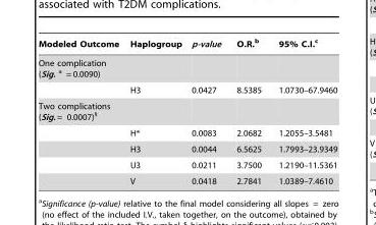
<table><thead><tr><td>Modeled Outcome</td><td>Haplogroup</td><td>p-value</td><td>O.R.<sup>b</sup></td><td>95% C.I.<sup>c</sup></td></tr></thead><tbody><tr><td colspan="5">One complication (Sig. a = 0.0090)</td></tr><tr><td></td><td>H3</td><td>0.0427</td><td>8.5385</td><td>1.0730–67.9460</td></tr><tr><td colspan="5">Two complications (Sig. = 0.0007)<sup>§</sup></td></tr><tr><td></td><td>H*</td><td>0.0083</td><td>2.0682</td><td>1.2055–3.5481</td></tr><tr><td></td><td>H3</td><td>0.0044</td><td>6.5625</td><td>1.7993–23.9349</td></tr><tr><td></td><td>U3</td><td>0.0211</td><td>3.7500</td><td>1.2190–11.5361</td></tr><tr><td></td><td>V</td><td>0.0418</td><td>2.7841</td><td>1.0389–7.4610</td></tr></tbody></table>